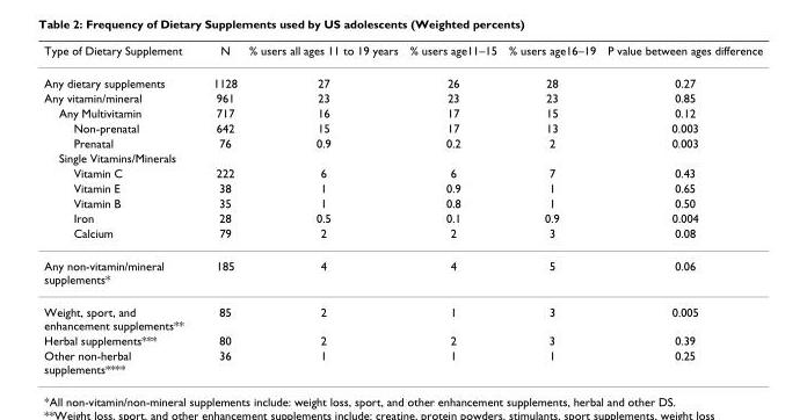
<table><thead><tr><td>Type of Dietary Supplement</td><td>N</td><td>% users all ages 11 to 19 years</td><td>% users age11–15</td><td>% users age16–19</td><td>P value between ages difference</td></tr></thead><tbody><tr><td>Any dietary supplements</td><td>1128</td><td>27</td><td>26</td><td>28</td><td>0.27</td></tr><tr><td>Any vitamin/mineral</td><td>961</td><td>23</td><td>23</td><td>23</td><td>0.85</td></tr><tr><td>Any Multivitamin</td><td>717</td><td>16</td><td>17</td><td>15</td><td>0.12</td></tr><tr><td>Non-prenatal</td><td>642</td><td>15</td><td>17</td><td>13</td><td>0.003</td></tr><tr><td>Prenatal</td><td>76</td><td>0.9</td><td>0.2</td><td>2</td><td>0.003</td></tr><tr><td colspan="6">Single Vitamins/Minerals</td></tr><tr><td>Vitamin C</td><td>222</td><td>6</td><td>6</td><td>7</td><td>0.43</td></tr><tr><td>Vitamin E</td><td>38</td><td>1</td><td>0.9</td><td>1</td><td>0.65</td></tr><tr><td>Vitamin B</td><td>35</td><td>1</td><td>0.8</td><td>1</td><td>0.50</td></tr><tr><td>Iron</td><td>28</td><td>0.5</td><td>0.1</td><td>0.9</td><td>0.004</td></tr><tr><td>Calcium</td><td>79</td><td>2</td><td>2</td><td>3</td><td>0.08</td></tr><tr><td>Any non-vitamin/mineral supplements*</td><td>185</td><td>4</td><td>4</td><td>5</td><td>0.06</td></tr><tr><td>Weight, sport, and enhancement supplements**</td><td>85</td><td>2</td><td>1</td><td>3</td><td>0.005</td></tr><tr><td>Herbal supplements***</td><td>80</td><td>2</td><td>2</td><td>3</td><td>0.39</td></tr><tr><td>Other non-herbal supplements****</td><td>36</td><td>1</td><td>1</td><td>1</td><td>0.25</td></tr></tbody></table>